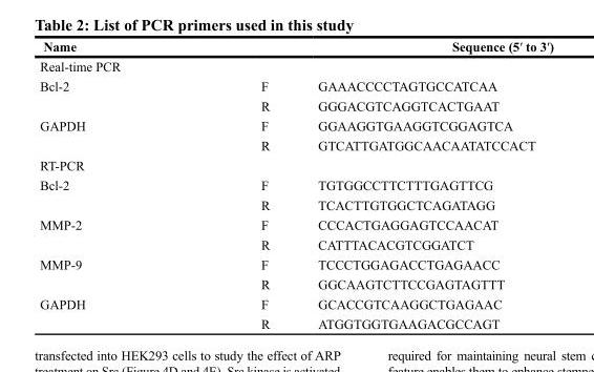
<table><thead><tr><td>Name</td><td></td><td>Sequence (5′ to 3′)</td></tr></thead><tbody><tr><td colspan="3">Real-time PCR</td></tr><tr><td rowspan="2">Bcl-2</td><td>F</td><td>GAAACCCCTAGTGCCATCAA</td></tr><tr><td>R</td><td>GGGACGTCAGGTCACTGAAT</td></tr><tr><td rowspan="2">GAPDH</td><td>F</td><td>GGAAGGTGAAGGTCGGAGTCA</td></tr><tr><td>R</td><td>GTCATTGATGGCAACAATATCCACT</td></tr><tr><td colspan="3">RT-PCR</td></tr><tr><td rowspan="2">Bcl-2</td><td>F</td><td>TGTGGCCTTCTTTGAGTTCG</td></tr><tr><td>R</td><td>TCACTTGTGGCTCAGATAGG</td></tr><tr><td rowspan="2">MMP-2</td><td>F</td><td>CCCACTGAGGAGTCCAACAT</td></tr><tr><td>R</td><td>CATTTACACGTCGGATCT</td></tr><tr><td rowspan="2">MMP-9</td><td>F</td><td>TCCCTGGAGACCTGAGAACC</td></tr><tr><td>R</td><td>GGCAAGTCTTCCGAGTAGTTT</td></tr><tr><td rowspan="2">GAPDH</td><td>F</td><td>GCACCGTCAAGGCTGAGAAC</td></tr><tr><td>R</td><td>ATGGTGGTGAAGACGCCAGT</td></tr></tbody></table>